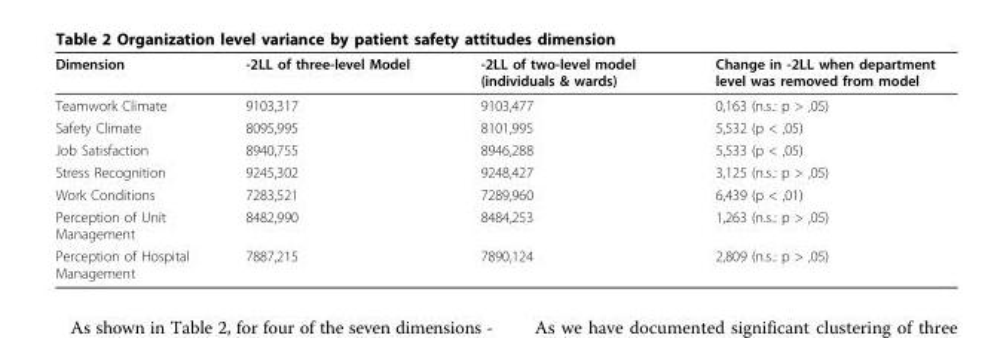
<table><thead><tr><td>Dimension</td><td>-2LL of three-level Model</td><td>-2LL of two-level model (individuals &amp; wards)</td><td>Change in -2LL when department level was removed from model</td></tr></thead><tbody><tr><td>Teamwork Climate</td><td>9103,317</td><td>9103,477</td><td>0,163 (n.s.: p &gt; ,05)</td></tr><tr><td>Safety Climate</td><td>8095,995</td><td>8101,995</td><td>5,532 (p &lt; ,05)</td></tr><tr><td>Job Satisfaction</td><td>8940,755</td><td>8946,288</td><td>5,533 (p &lt; ,05)</td></tr><tr><td>Stress Recognition</td><td>9245,302</td><td>9248,427</td><td>3,125 (n.s.: p &gt; ,05)</td></tr><tr><td>Work Conditions</td><td>7283,521</td><td>7289,960</td><td>6,439 (p &lt; ,01)</td></tr><tr><td>Perception of Unit Management</td><td>8482,990</td><td>8484,253</td><td>1,263 (n.s.: p &gt; ,05)</td></tr><tr><td>Perception of Hospital Management</td><td>7887,215</td><td>7890,124</td><td>2,809 (n.s.: p &gt; ,05)</td></tr></tbody></table>